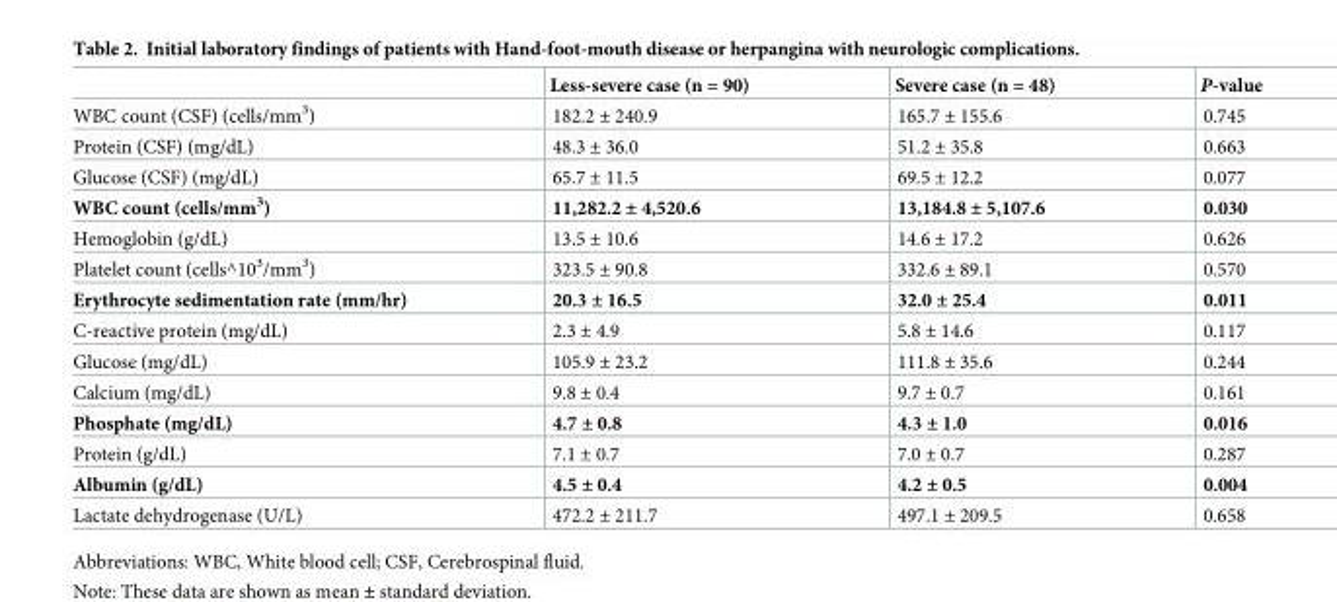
<table><thead><tr><td></td><td>Less-severe case (n = 90)</td><td>Severe case (n = 48)</td><td>P-value</td></tr></thead><tbody><tr><td>WBC count (CSF) (cells/mm<sup>3</sup>)</td><td>182.2 ± 240.9</td><td>165.7 ± 155.6</td><td>0.745</td></tr><tr><td>Protein (CSF) (mg/dL)</td><td>48.3 ± 36.0</td><td>51.2 ± 35.8</td><td>0.663</td></tr><tr><td>Glucose (CSF) (mg/dL)</td><td>65.7 ± 11.5</td><td>69.5 ± 12.2</td><td>0.077</td></tr><tr><td>WBC count (cells/mm<sup>3</sup>)</td><td>11,282.2 ± 4,520.6</td><td>13,184.8 ± 5,107.6</td><td>0.030</td></tr><tr><td>Hemoglobin (g/dL)</td><td>13.5 ± 10.6</td><td>14.6 ± 17.2</td><td>0.626</td></tr><tr><td>Platelet count (cells^10<sup>3</sup>/mm<sup>3</sup>)</td><td>323.5 ± 90.8</td><td>332.6 ± 89.1</td><td>0.570</td></tr><tr><td>Erythrocyte sedimentation rate (mm/hr)</td><td>20.3 ± 16.5</td><td>32.0 ± 25.4</td><td>0.011</td></tr><tr><td>C-reactive protein (mg/dL)</td><td>2.3 ± 4.9</td><td>5.8 ± 14.6</td><td>0.117</td></tr><tr><td>Glucose (mg/dL)</td><td>105.9 ± 23.2</td><td>111.8 ± 35.6</td><td>0.244</td></tr><tr><td>Calcium (mg/dL)</td><td>9.8 ± 0.4</td><td>9.7 ± 0.7</td><td>0.161</td></tr><tr><td>Phosphate (mg/dL)</td><td>4.7 ± 0.8</td><td>4.3 ± 1.0</td><td>0.016</td></tr><tr><td>Protein (g/dL)</td><td>7.1 ± 0.7</td><td>7.0 ± 0.7</td><td>0.287</td></tr><tr><td>Albumin (g/dL)</td><td>4.5 ± 0.4</td><td>4.2 ± 0.5</td><td>0.004</td></tr><tr><td>Lactate dehydrogenase (U/L)</td><td>472.2 ± 211.7</td><td>497.1 ± 209.5</td><td>0.658</td></tr></tbody></table>